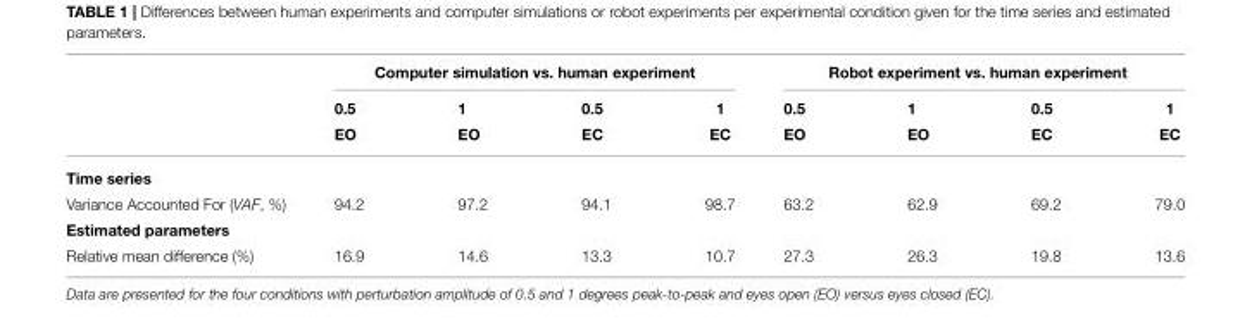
<table><thead><tr><td rowspan="3"></td><td colspan="4">Computer simulation vs. human experiment</td><td colspan="4">Robot experiment vs. human experiment</td></tr><tr><td rowspan="2">0.5 EO</td><td rowspan="2">1 EO</td><td rowspan="2">0.5 EC</td><td rowspan="2">1 EC</td><td rowspan="2">0.5 EO</td><td rowspan="2">1 EO</td><td rowspan="2">0.5 EC</td><td rowspan="2">1 EC</td></tr><tr></tr></thead><tbody><tr><td colspan="9">Time series</td></tr><tr><td>Variance Accounted For (VAF, %)</td><td>94.2</td><td>97.2</td><td>94.1</td><td>98.7</td><td>63.2</td><td>62.9</td><td>69.2</td><td>79.0</td></tr><tr><td colspan="9">Estimated parameters</td></tr><tr><td>Relative mean difference (%)</td><td>16.9</td><td>14.6</td><td>13.3</td><td>10.7</td><td>27.3</td><td>26.3</td><td>19.8</td><td>13.6</td></tr></tbody></table>